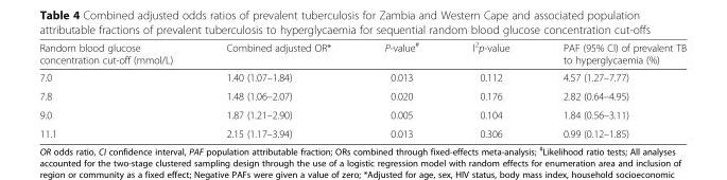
<table><thead><tr><td>Random blood glucose concentration cut-off (mmol/L)</td><td>Combined adjusted OR*</td><td>P-value<sup>#</sup></td><td>I<sup>2</sup>p-value</td><td>PAF (95% CI) of prevalent TB to hyperglycaemia (%)</td></tr></thead><tbody><tr><td>7.0</td><td>1.40 (1.07–1.84)</td><td>0.013</td><td>0.112</td><td>4.57 (1.27–7.77)</td></tr><tr><td>7.8</td><td>1.48 (1.06–2.07)</td><td>0.020</td><td>0.176</td><td>2.82 (0.64–4.95)</td></tr><tr><td>9.0</td><td>1.87 (1.21–2.90)</td><td>0.005</td><td>0.104</td><td>1.84 (0.56–3.11)</td></tr><tr><td>11.1</td><td>2.15 (1.17–3.94)</td><td>0.013</td><td>0.306</td><td>0.99 (0.12–1.85)</td></tr></tbody></table>